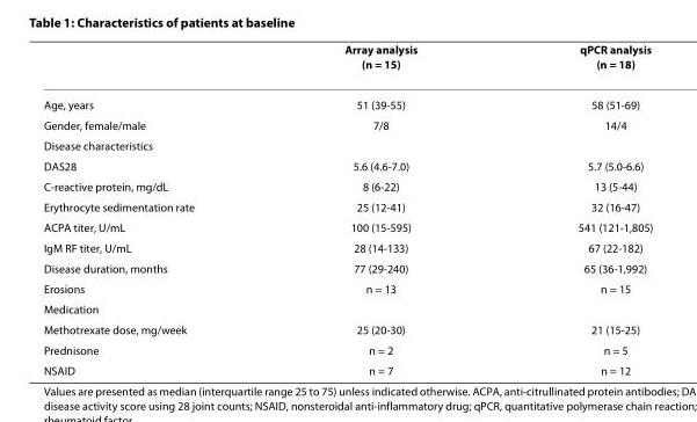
<table><thead><tr><td></td><td>Array analysis (n = 15)</td><td>qPCR analysis (n = 18)</td></tr></thead><tbody><tr><td>Age, years</td><td>51 (39-55)</td><td>58 (51-69)</td></tr><tr><td>Gender, female/male</td><td>7/8</td><td>14/4</td></tr><tr><td colspan="3">Disease characteristics</td></tr><tr><td>DAS28</td><td>5.6 (4.6-7.0)</td><td>5.7 (5.0-6.6)</td></tr><tr><td>C-reactive protein, mg/dL</td><td>8 (6-22)</td><td>13 (5-44)</td></tr><tr><td>Erythrocyte sedimentation rate</td><td>25 (12-41)</td><td>32 (16-47)</td></tr><tr><td>ACPA titer, U/mL</td><td>100 (15-595)</td><td>541 (121-1,805)</td></tr><tr><td>IgM RF titer, U/mL</td><td>28 (14-133)</td><td>67 (22-182)</td></tr><tr><td>Disease duration, months</td><td>77 (29-240)</td><td>65 (36-1,992)</td></tr><tr><td>Erosions</td><td>n = 13</td><td>n = 15</td></tr><tr><td colspan="3">Medication</td></tr><tr><td>Methotrexate dose, mg/week</td><td>25 (20-30)</td><td>21 (15-25)</td></tr><tr><td>Prednisone</td><td>n = 2</td><td>n = 5</td></tr><tr><td>NSAID</td><td>n = 7</td><td>n = 12</td></tr></tbody></table>